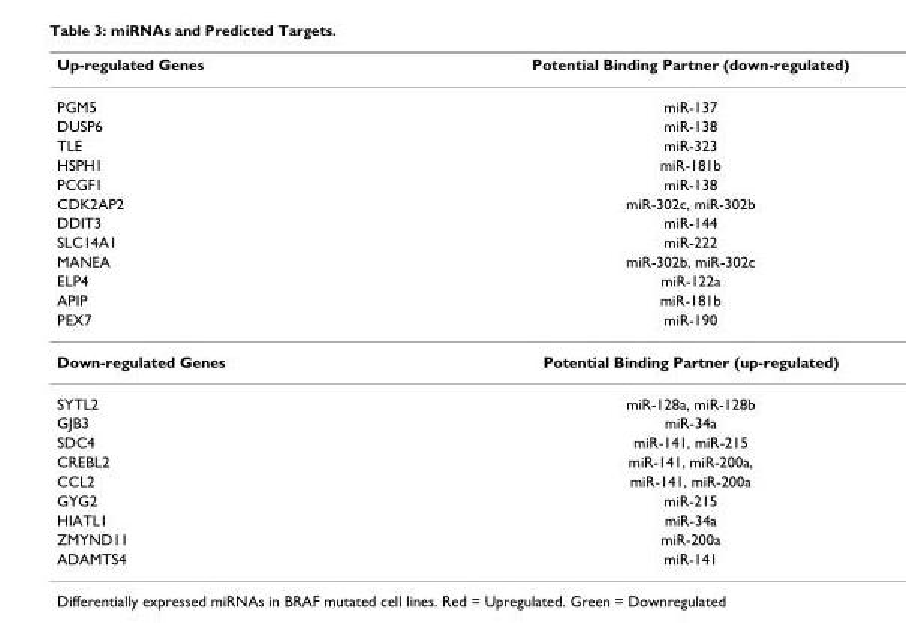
<table><thead><tr><td>Up-regulated Genes</td><td>Potential Binding Partner (down-regulated)</td></tr></thead><tbody><tr><td>PGM5</td><td>miR-137</td></tr><tr><td>DUSP6</td><td>miR-138</td></tr><tr><td>TLE</td><td>miR-323</td></tr><tr><td>HSPH1</td><td>miR-181b</td></tr><tr><td>PCGF1</td><td>miR-138</td></tr><tr><td>CDK2AP2</td><td>miR-302c, miR-302b</td></tr><tr><td>DDIT3</td><td>miR-144</td></tr><tr><td>SLC14A1</td><td>miR-222</td></tr><tr><td>MANEA</td><td>miR-302b, miR-302c</td></tr><tr><td>ELP4</td><td>miR-122a</td></tr><tr><td>APIP</td><td>miR-181b</td></tr><tr><td>PEX7</td><td>miR-190</td></tr><tr><td>Down-regulated Genes</td><td>Potential Binding Partner (up-regulated)</td></tr><tr><td>SYTL2</td><td>miR-128a, miR-128b</td></tr><tr><td>GJB3</td><td>miR-34a</td></tr><tr><td>SDC4</td><td>miR-141, miR-215</td></tr><tr><td>CREBL2</td><td>miR-141, miR-200a,</td></tr><tr><td>CCL2</td><td>miR-141, miR-200a</td></tr><tr><td>GYG2</td><td>miR-215</td></tr><tr><td>HIATL1</td><td>miR-34a</td></tr><tr><td>ZMYND11</td><td>miR-200a</td></tr><tr><td>ADAMTS4</td><td>miR-141</td></tr></tbody></table>